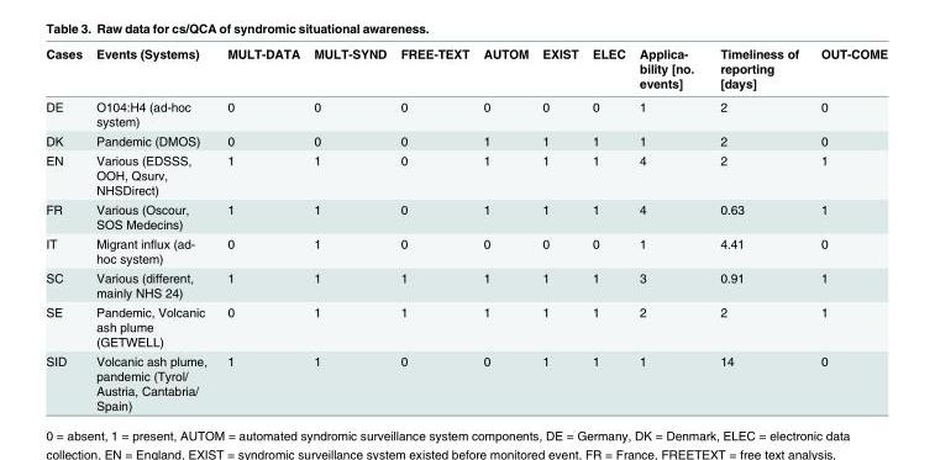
<table><thead><tr><td>Cases</td><td>Events (Systems)</td><td>MULT-DATA</td><td>MULT-SYND</td><td>FREE-TEXT</td><td>AUTOM</td><td>EXIST</td><td>ELEC</td><td>Applica- bility [no. events]</td><td>Timeliness of reporting [days]</td><td>OUT-COME</td></tr></thead><tbody><tr><td>DE</td><td>O104:H4 (ad-hoc system)</td><td>0</td><td>0</td><td>0</td><td>0</td><td>0</td><td>0</td><td>1</td><td>2</td><td>0</td></tr><tr><td>DK</td><td>Pandemic (DMOS)</td><td>0</td><td>0</td><td>0</td><td>1</td><td>1</td><td>1</td><td>1</td><td>2</td><td>0</td></tr><tr><td>EN</td><td>Various (EDSSS, OOH, Qsurv, NHSDirect)</td><td>1</td><td>1</td><td>0</td><td>1</td><td>1</td><td>1</td><td>4</td><td>2</td><td>1</td></tr><tr><td>FR</td><td>Various (Oscour, SOS Medecins)</td><td>1</td><td>1</td><td>0</td><td>1</td><td>1</td><td>1</td><td>4</td><td>0.63</td><td>1</td></tr><tr><td>IT</td><td>Migrant influx (ad- hoc system)</td><td>0</td><td>1</td><td>0</td><td>0</td><td>0</td><td>0</td><td>1</td><td>4.41</td><td>0</td></tr><tr><td>SC</td><td>Various (different, mainly NHS 24)</td><td>1</td><td>1</td><td>1</td><td>1</td><td>1</td><td>1</td><td>3</td><td>0.91</td><td>1</td></tr><tr><td>SE</td><td>Pandemic, Volcanic ash plume (GETWELL)</td><td>0</td><td>1</td><td>1</td><td>1</td><td>1</td><td>1</td><td>2</td><td>2</td><td>1</td></tr><tr><td>SID</td><td>Volcanic ash plume, pandemic (Tyrol/ Austria, Cantabria/ Spain)</td><td>1</td><td>1</td><td>0</td><td>0</td><td>1</td><td>1</td><td>1</td><td>14</td><td>0</td></tr></tbody></table>